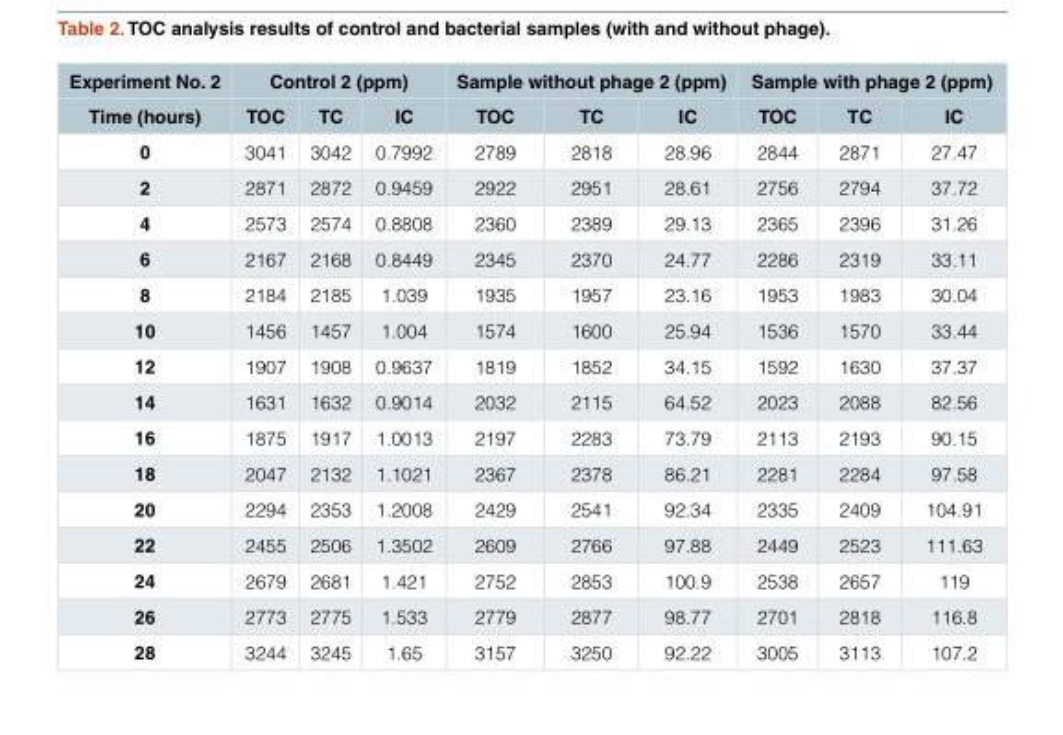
<table><thead><tr><td rowspan="2">Experiment No. 2 Time (hours)</td><td colspan="3">Control 2 (ppm)</td><td colspan="3">Sample without phage 2 (ppm)</td><td colspan="3">Sample with phage 2 (ppm)</td></tr><tr><td>TOC</td><td>TC</td><td>IC</td><td>TOC</td><td>TC</td><td>IC</td><td>TOC</td><td>TC</td><td>IC</td></tr></thead><tbody><tr><td>0</td><td>3041</td><td>3042</td><td>0.7992</td><td>2789</td><td>2818</td><td>28.96</td><td>2844</td><td>2871</td><td>27.47</td></tr><tr><td>2</td><td>2871</td><td>2872</td><td>0.9459</td><td>2922</td><td>2951</td><td>28.61</td><td>2756</td><td>2794</td><td>37.72</td></tr><tr><td>4</td><td>2573</td><td>2574</td><td>0.8808</td><td>2360</td><td>2389</td><td>29.13</td><td>2365</td><td>2396</td><td>31.26</td></tr><tr><td>6</td><td>2167</td><td>2168</td><td>0.8449</td><td>2345</td><td>2370</td><td>24.77</td><td>2286</td><td>2319</td><td>33.11</td></tr><tr><td>8</td><td>2184</td><td>2185</td><td>1.039</td><td>1935</td><td>1957</td><td>23.16</td><td>1953</td><td>1983</td><td>30.04</td></tr><tr><td>10</td><td>1456</td><td>1457</td><td>1.004</td><td>1574</td><td>1600</td><td>25.94</td><td>1536</td><td>1570</td><td>33.44</td></tr><tr><td>12</td><td>1907</td><td>1908</td><td>0.9637</td><td>1819</td><td>1852</td><td>34.15</td><td>1592</td><td>1630</td><td>37.37</td></tr><tr><td>14</td><td>1631</td><td>1632</td><td>0.9014</td><td>2032</td><td>2115</td><td>64.52</td><td>2023</td><td>2088</td><td>82.56</td></tr><tr><td>16</td><td>1875</td><td>1917</td><td>1.0013</td><td>2197</td><td>2283</td><td>73.79</td><td>2113</td><td>2193</td><td>90.15</td></tr><tr><td>18</td><td>2047</td><td>2132</td><td>1.1021</td><td>2367</td><td>2378</td><td>86.21</td><td>2281</td><td>2284</td><td>97.58</td></tr><tr><td>20</td><td>2294</td><td>2353</td><td>1.2008</td><td>2429</td><td>2541</td><td>92.34</td><td>2335</td><td>2409</td><td>104.91</td></tr><tr><td>22</td><td>2455</td><td>2506</td><td>1.3502</td><td>2609</td><td>2766</td><td>97.88</td><td>2449</td><td>2523</td><td>111.63</td></tr><tr><td>24</td><td>2679</td><td>2681</td><td>1.421</td><td>2752</td><td>2853</td><td>100.9</td><td>2538</td><td>2657</td><td>119</td></tr><tr><td>26</td><td>2773</td><td>2775</td><td>1.533</td><td>2779</td><td>2877</td><td>98.77</td><td>2701</td><td>2818</td><td>116.8</td></tr><tr><td>28</td><td>3244</td><td>3245</td><td>1.65</td><td>3157</td><td>3250</td><td>92.22</td><td>3005</td><td>3113</td><td>107.2</td></tr></tbody></table>